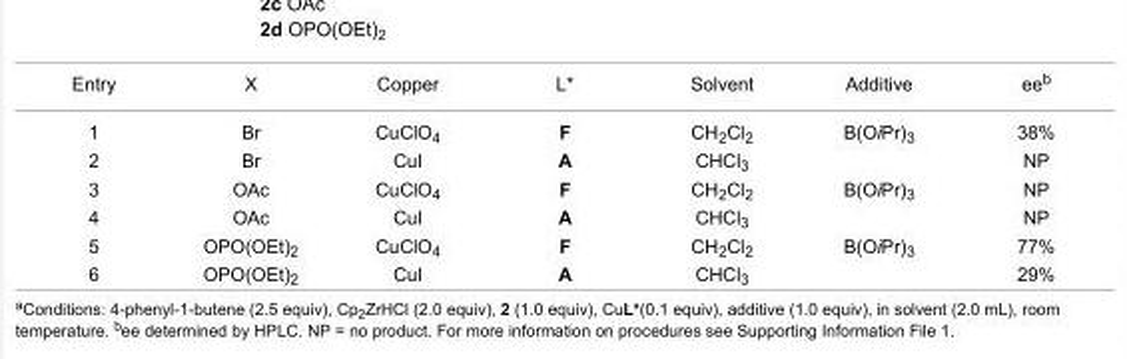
<table><tbody><tr><td>Entry</td><td>X</td><td>Copper</td><td>L*</td><td>Solvent</td><td>Additive</td><td>ee<sup>b</sup></td></tr><tr><td>1</td><td>Br</td><td>CuClO<sub>4</sub></td><td>F</td><td>CH<sub>2</sub>Cl<sub>2</sub></td><td>B(OiPr)<sub>3</sub></td><td>38%</td></tr><tr><td>2</td><td>Br</td><td>CuI</td><td>A</td><td>CHCl<sub>3</sub></td><td></td><td>NP</td></tr><tr><td>3</td><td>OAc</td><td>CuClO<sub>4</sub></td><td>F</td><td>CH<sub>2</sub>Cl<sub>2</sub></td><td>B(OiPr)<sub>3</sub></td><td>NP</td></tr><tr><td>4</td><td>OAc</td><td>CuI</td><td>A</td><td>CHCl<sub>3</sub></td><td></td><td>NP</td></tr><tr><td>5</td><td>OPO(OEt)<sub>2</sub></td><td>CuClO<sub>4</sub></td><td>F</td><td>CH<sub>2</sub>Cl<sub>2</sub></td><td>B(OiPr)<sub>3</sub></td><td>77%</td></tr><tr><td>6</td><td>OPO(OEt)<sub>2</sub></td><td>CuI</td><td>A</td><td>CHCl<sub>3</sub></td><td></td><td>29%</td></tr></tbody></table>